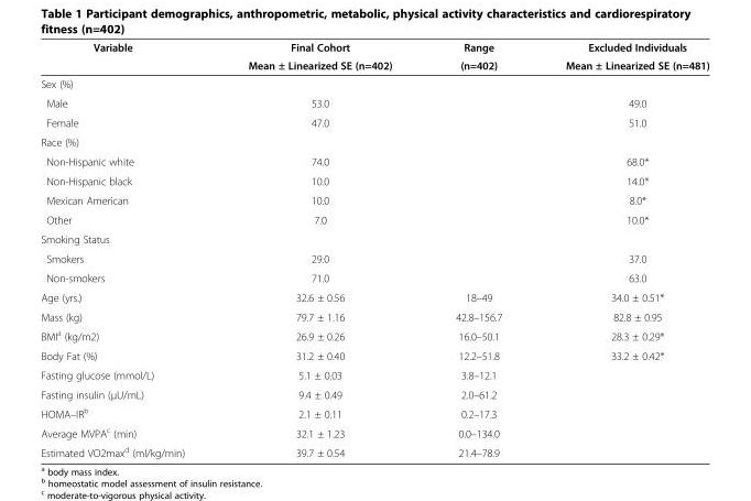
<table><thead><tr><td rowspan="2">Variable</td><td rowspan="2">Final Cohort Mean ± Linearized SE (n=402)</td><td rowspan="2">Range (n=402)</td><td rowspan="2">Excluded Individuals Mean ± Linearized SE (n=481)</td></tr><tr></tr></thead><tbody><tr><td colspan="4">Sex (%)</td></tr><tr><td>Male</td><td>53.0</td><td></td><td>49.0</td></tr><tr><td>Female</td><td>47.0</td><td></td><td>51.0</td></tr><tr><td colspan="4">Race (%)</td></tr><tr><td>Non-Hispanic white</td><td>74.0</td><td></td><td>68.0*</td></tr><tr><td>Non-Hispanic black</td><td>10.0</td><td></td><td>14.0*</td></tr><tr><td>Mexican American</td><td>10.0</td><td></td><td>8.0*</td></tr><tr><td>Other</td><td>7.0</td><td></td><td>10.0*</td></tr><tr><td colspan="4">Smoking Status</td></tr><tr><td>Smokers</td><td>29.0</td><td></td><td>37.0</td></tr><tr><td>Non-smokers</td><td>71.0</td><td></td><td>63.0</td></tr><tr><td>Age (yrs.)</td><td>32.6 ± 0.56</td><td>18–49</td><td>34.0 ± 0.51*</td></tr><tr><td>Mass (kg)</td><td>79.7 ± 1.16</td><td>42.8–156.7</td><td>82.8 ± 0.95</td></tr><tr><td>BMI<sup>a</sup> (kg/m2)</td><td>26.9 ± 0.26</td><td>16.0–50.1</td><td>28.3 ± 0.29*</td></tr><tr><td>Body Fat (%)</td><td>31.2 ± 0.40</td><td>12.2–51.8</td><td>33.2 ± 0.42*</td></tr><tr><td>Fasting glucose (mmol/L)</td><td>5.1 ± 0.03</td><td>3.8–12.1</td><td></td></tr><tr><td>Fasting insulin (μU/mL)</td><td>9.4 ± 0.49</td><td>2.0–61.2</td><td></td></tr><tr><td>HOMA–IR<sup>b</sup></td><td>2.1 ± 0.11</td><td>0.2–17.3</td><td></td></tr><tr><td>Average MVPA<sup>c</sup> (min)</td><td>32.1 ± 1.23</td><td>0.0–134.0</td><td></td></tr><tr><td>Estimated VO2max<sup>d</sup> (ml/kg/min)</td><td>39.7 ± 0.54</td><td>21.4–78.9</td><td></td></tr></tbody></table>